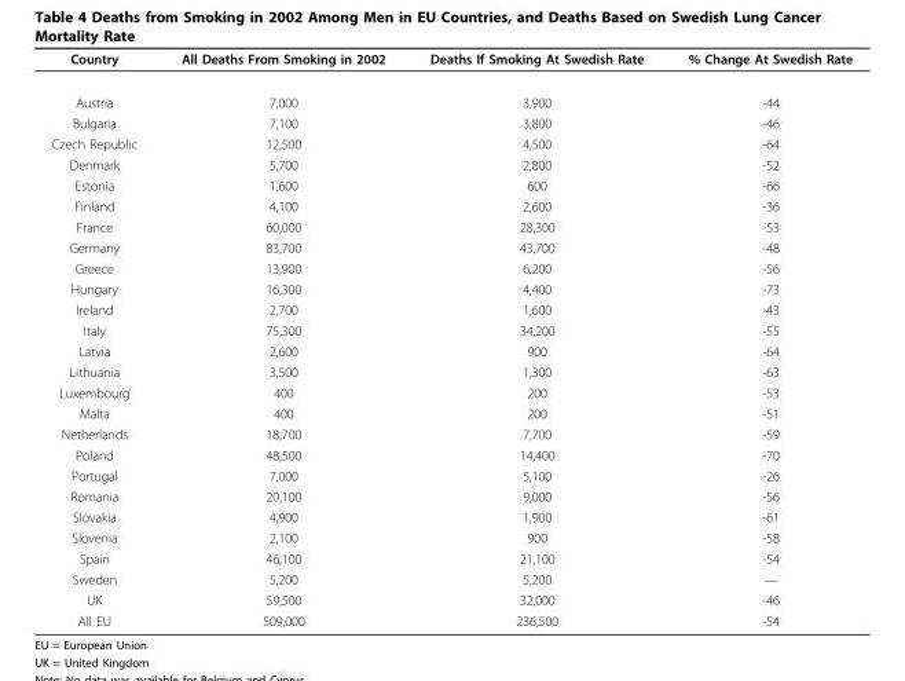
<table><thead><tr><td>Country</td><td>All Deaths From Smoking in 2002</td><td>Deaths If Smoking At Swedish Rate</td><td>% Change At Swedish Rate</td></tr></thead><tbody><tr><td>Austria</td><td>7,000</td><td>3,900</td><td>-44</td></tr><tr><td>Bulgaria</td><td>7,100</td><td>3,800</td><td>-46</td></tr><tr><td>Czech Republic</td><td>12,500</td><td>4,500</td><td>-64</td></tr><tr><td>Denmark</td><td>5,700</td><td>2,800</td><td>-52</td></tr><tr><td>Estonia</td><td>1,600</td><td>600</td><td>-66</td></tr><tr><td>Finland</td><td>4,100</td><td>2,600</td><td>-36</td></tr><tr><td>France</td><td>60,000</td><td>28,300</td><td>-53</td></tr><tr><td>Germany</td><td>83,700</td><td>43,700</td><td>-48</td></tr><tr><td>Greece</td><td>13,900</td><td>6,200</td><td>-56</td></tr><tr><td>Hungary</td><td>16,300</td><td>4,400</td><td>-73</td></tr><tr><td>Ireland</td><td>2,700</td><td>1,600</td><td>-43</td></tr><tr><td>Italy</td><td>75,300</td><td>34,200</td><td>-55</td></tr><tr><td>Latvia</td><td>2,600</td><td>900</td><td>-64</td></tr><tr><td>Lithuania</td><td>3,500</td><td>1,300</td><td>-63</td></tr><tr><td>Luxembourg</td><td>400</td><td>200</td><td>-53</td></tr><tr><td>Malta</td><td>400</td><td>200</td><td>-51</td></tr><tr><td>Netherlands</td><td>18,700</td><td>7,700</td><td>-59</td></tr><tr><td>Poland</td><td>48,500</td><td>14,400</td><td>-70</td></tr><tr><td>Portugal</td><td>7,000</td><td>5,100</td><td>-26</td></tr><tr><td>Romania</td><td>20,100</td><td>9,000</td><td>-56</td></tr><tr><td>Slovakia</td><td>4,900</td><td>1,900</td><td>-61</td></tr><tr><td>Slovenia</td><td>2,100</td><td>900</td><td>-58</td></tr><tr><td>Spain</td><td>46,100</td><td>21,100</td><td>-54</td></tr><tr><td>Sweden</td><td>5,200</td><td>5,200</td><td>—</td></tr><tr><td>UK</td><td>59,500</td><td>32,000</td><td>-46</td></tr><tr><td>All EU</td><td>509,000</td><td>236,500</td><td>-54</td></tr></tbody></table>